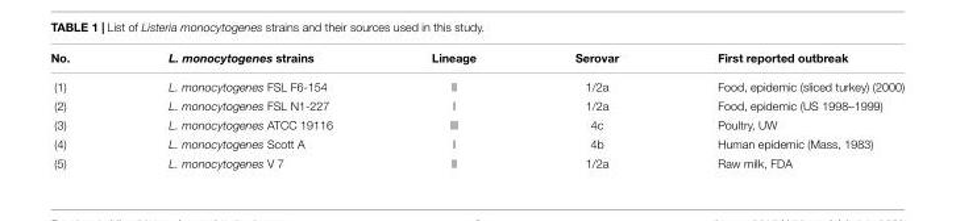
<table><thead><tr><td>No.</td><td>L. monocytogenes strains</td><td>Lineage</td><td>Serovar</td><td>First reported outbreak</td></tr></thead><tbody><tr><td>(1)</td><td>L. monocytogenes FSL F6-154</td><td>II</td><td>1/2a</td><td>Food, epidemic (sliced turkey) (2000)</td></tr><tr><td>(2)</td><td>L. monocytogenes FSL N1-227</td><td>I</td><td>1/2a</td><td>Food, epidemic (US 1998–1999)</td></tr><tr><td>(3)</td><td>L. monocytogenes ATCC 19116</td><td>III</td><td>4c</td><td>Poultry, UW</td></tr><tr><td>(4)</td><td>L. monocytogenes Scott A</td><td>I</td><td>4b</td><td>Human epidemic (Mass, 1983)</td></tr><tr><td>(5)</td><td>L. monocytogenes V 7</td><td>II</td><td>1/2a</td><td>Raw milk, FDA</td></tr></tbody></table>